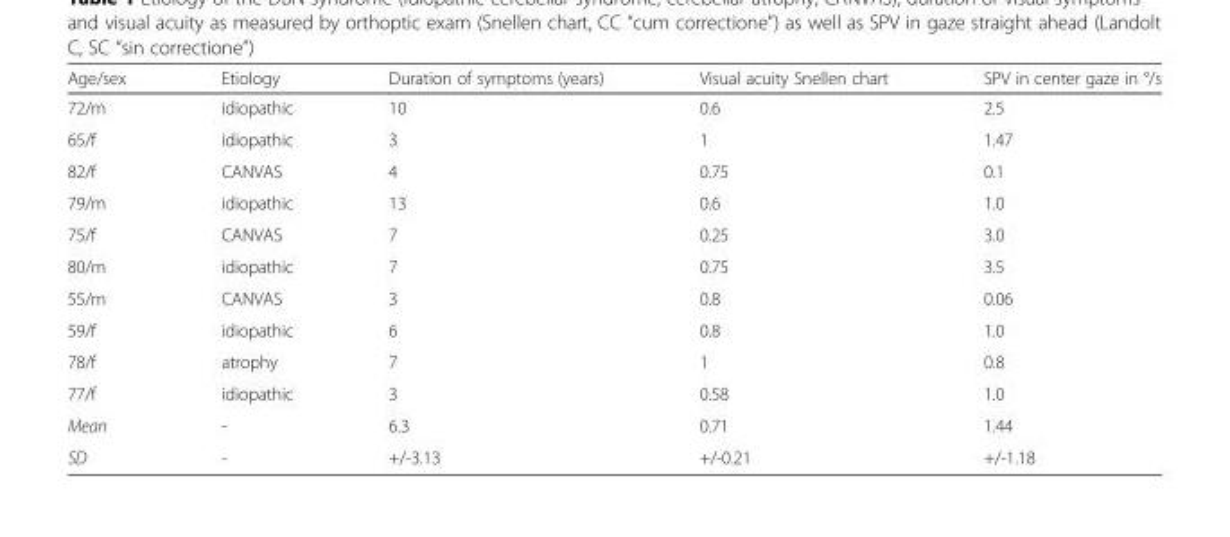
<table><thead><tr><td>Age/sex</td><td>Etiology</td><td>Duration of symptoms (years)</td><td>Visual acuity Snellen chart</td><td>SPV in center gaze in °/s</td></tr></thead><tbody><tr><td>72/m</td><td>idiopathic</td><td>10</td><td>0.6</td><td>2.5</td></tr><tr><td>65/f</td><td>idiopathic</td><td>3</td><td>1</td><td>1.47</td></tr><tr><td>82/f</td><td>CANVAS</td><td>4</td><td>0.75</td><td>0.1</td></tr><tr><td>79/m</td><td>idiopathic</td><td>13</td><td>0.6</td><td>1.0</td></tr><tr><td>75/f</td><td>CANVAS</td><td>7</td><td>0.25</td><td>3.0</td></tr><tr><td>80/m</td><td>idiopathic</td><td>7</td><td>0.75</td><td>3.5</td></tr><tr><td>55/m</td><td>CANVAS</td><td>3</td><td>0.8</td><td>0.06</td></tr><tr><td>59/f</td><td>idiopathic</td><td>6</td><td>0.8</td><td>1.0</td></tr><tr><td>78/f</td><td>atrophy</td><td>7</td><td>1</td><td>0.8</td></tr><tr><td>77/f</td><td>idiopathic</td><td>3</td><td>0.58</td><td>1.0</td></tr><tr><td>Mean</td><td>-</td><td>6.3</td><td>0.71</td><td>1.44</td></tr><tr><td>SD</td><td>-</td><td>+/-3.13</td><td>+/-0.21</td><td>+/-1.18</td></tr></tbody></table>